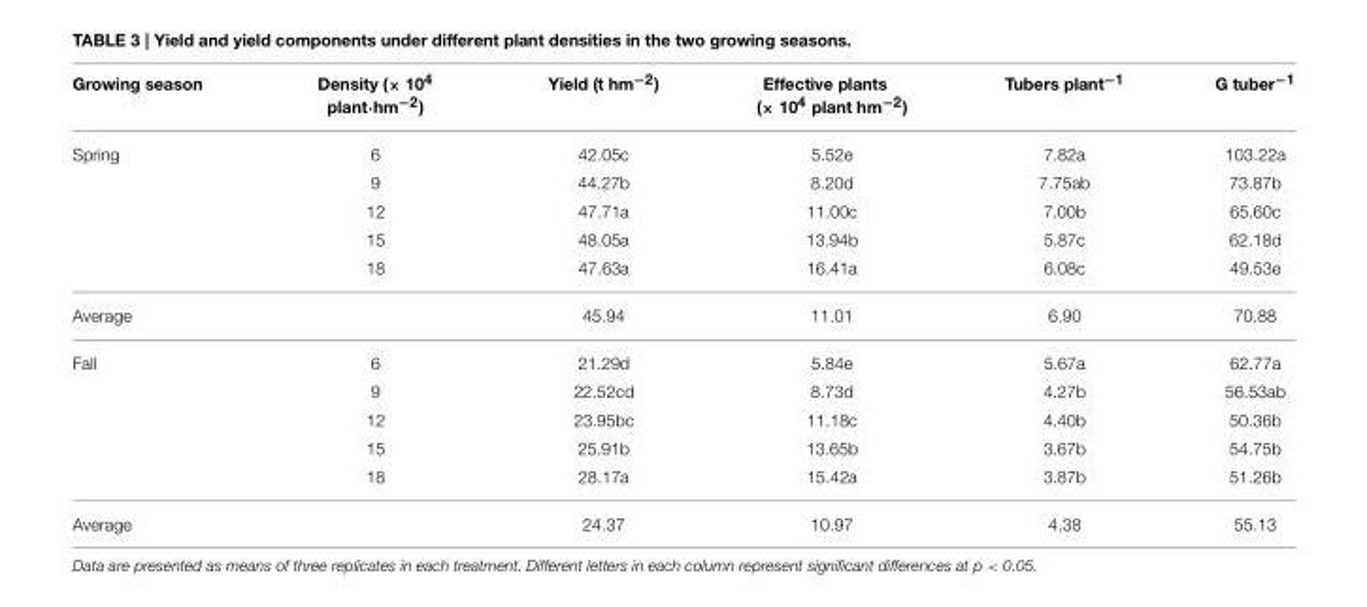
<table><thead><tr><td>Growing season</td><td>Density (× 10<sup>4</sup> plant·hm<sup>−2</sup>)</td><td>Yield (t hm<sup>−2</sup>)</td><td>Effective plants (× 10<sup>4</sup> plant hm<sup>−2</sup>)</td><td>Tubers plant<sup>−1</sup></td><td>G tuber<sup>−1</sup></td></tr></thead><tbody><tr><td rowspan="5">Spring</td><td>6</td><td>42.05c</td><td>5.52e</td><td>7.82a</td><td>103.22a</td></tr><tr><td>9</td><td>44.27b</td><td>8.20d</td><td>7.75ab</td><td>73.87b</td></tr><tr><td>12</td><td>47.71a</td><td>11.00c</td><td>7.00b</td><td>65.60c</td></tr><tr><td>15</td><td>48.05a</td><td>13.94b</td><td>5.87c</td><td>62.18d</td></tr><tr><td>18</td><td>47.63a</td><td>16.41a</td><td>6.08c</td><td>49.53e</td></tr><tr><td colspan="2">Average</td><td>45.94</td><td>11.01</td><td>6.90</td><td>70.88</td></tr><tr><td rowspan="5">Fall</td><td>6</td><td>21.29d</td><td>5.84e</td><td>5.67a</td><td>62.77a</td></tr><tr><td>9</td><td>22.52cd</td><td>8.73d</td><td>4.27b</td><td>56.53ab</td></tr><tr><td>12</td><td>23.95bc</td><td>11.18c</td><td>4.40b</td><td>50.36b</td></tr><tr><td>15</td><td>25.91b</td><td>13.65b</td><td>3.67b</td><td>54.75b</td></tr><tr><td>18</td><td>28.17a</td><td>15.42a</td><td>3.87b</td><td>51.26b</td></tr><tr><td colspan="2">Average</td><td>24.37</td><td>10.97</td><td>4.38</td><td>55.13</td></tr></tbody></table>